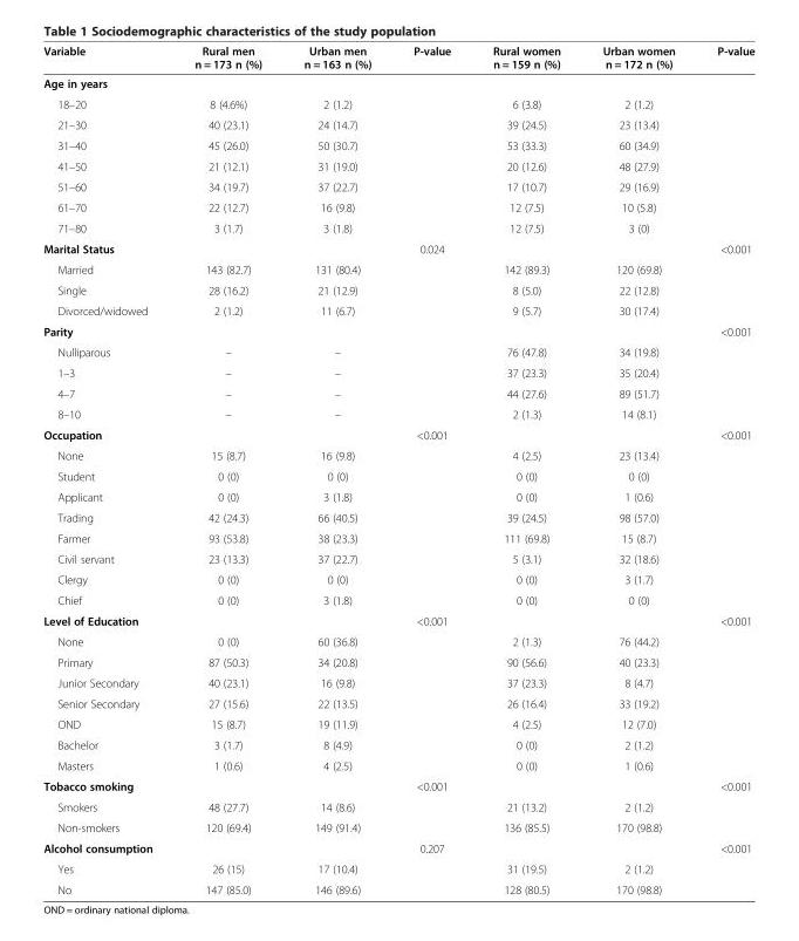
<table><thead><tr><td>Variable</td><td>Rural men n = 173 n (%)</td><td>Urban men n = 163 n (%)</td><td>P-value</td><td>Rural women n = 159 n (%)</td><td>Urban women n = 172 n (%)</td><td>P-value</td></tr></thead><tbody><tr><td colspan="7">Age in years</td></tr><tr><td>18–20</td><td>8 (4.6%)</td><td>2 (1.2)</td><td></td><td>6 (3.8)</td><td>2 (1.2)</td><td></td></tr><tr><td>21–30</td><td>40 (23.1)</td><td>24 (14.7)</td><td></td><td>39 (24.5)</td><td>23 (13.4)</td><td></td></tr><tr><td>31–40</td><td>45 (26.0)</td><td>50 (30.7)</td><td></td><td>53 (33.3)</td><td>60 (34.9)</td><td></td></tr><tr><td>41–50</td><td>21 (12.1)</td><td>31 (19.0)</td><td></td><td>20 (12.6)</td><td>48 (27.9)</td><td></td></tr><tr><td>51–60</td><td>34 (19.7)</td><td>37 (22.7)</td><td></td><td>17 (10.7)</td><td>29 (16.9)</td><td></td></tr><tr><td>61–70</td><td>22 (12.7)</td><td>16 (9.8)</td><td></td><td>12 (7.5)</td><td>10 (5.8)</td><td></td></tr><tr><td>71–80</td><td>3 (1.7)</td><td>3 (1.8)</td><td></td><td>12 (7.5)</td><td>3 (0)</td><td></td></tr><tr><td>Marital Status</td><td></td><td></td><td>0.024</td><td></td><td></td><td>&lt;0.001</td></tr><tr><td>Married</td><td>143 (82.7)</td><td>131 (80.4)</td><td></td><td>142 (89.3)</td><td>120 (69.8)</td><td></td></tr><tr><td>Single</td><td>28 (16.2)</td><td>21 (12.9)</td><td></td><td>8 (5.0)</td><td>22 (12.8)</td><td></td></tr><tr><td>Divorced/widowed</td><td>2 (1.2)</td><td>11 (6.7)</td><td></td><td>9 (5.7)</td><td>30 (17.4)</td><td></td></tr><tr><td>Parity</td><td></td><td></td><td></td><td></td><td></td><td>&lt;0.001</td></tr><tr><td>Nulliparous</td><td>–</td><td>–</td><td></td><td>76 (47.8)</td><td>34 (19.8)</td><td></td></tr><tr><td>1–3</td><td>–</td><td>–</td><td></td><td>37 (23.3)</td><td>35 (20.4)</td><td></td></tr><tr><td>4–7</td><td>–</td><td>–</td><td></td><td>44 (27.6)</td><td>89 (51.7)</td><td></td></tr><tr><td>8–10</td><td>–</td><td>–</td><td></td><td>2 (1.3)</td><td>14 (8.1)</td><td></td></tr><tr><td>Occupation</td><td></td><td></td><td>&lt;0.001</td><td></td><td></td><td>&lt;0.001</td></tr><tr><td>None</td><td>15 (8.7)</td><td>16 (9.8)</td><td></td><td>4 (2.5)</td><td>23 (13.4)</td><td></td></tr><tr><td>Student</td><td>0 (0)</td><td>0 (0)</td><td></td><td>0 (0)</td><td>0 (0)</td><td></td></tr><tr><td>Applicant</td><td>0 (0)</td><td>3 (1.8)</td><td></td><td>0 (0)</td><td>1 (0.6)</td><td></td></tr><tr><td>Trading</td><td>42 (24.3)</td><td>66 (40.5)</td><td></td><td>39 (24.5)</td><td>98 (57.0)</td><td></td></tr><tr><td>Farmer</td><td>93 (53.8)</td><td>38 (23.3)</td><td></td><td>111 (69.8)</td><td>15 (8.7)</td><td></td></tr><tr><td>Civil servant</td><td>23 (13.3)</td><td>37 (22.7)</td><td></td><td>5 (3.1)</td><td>32 (18.6)</td><td></td></tr><tr><td>Clergy</td><td>0 (0)</td><td>0 (0)</td><td></td><td>0 (0)</td><td>3 (1.7)</td><td></td></tr><tr><td>Chief</td><td>0 (0)</td><td>3 (1.8)</td><td></td><td>0 (0)</td><td>0 (0)</td><td></td></tr><tr><td>Level of Education</td><td></td><td></td><td>&lt;0.001</td><td></td><td></td><td>&lt;0.001</td></tr><tr><td>None</td><td>0 (0)</td><td>60 (36.8)</td><td></td><td>2 (1.3)</td><td>76 (44.2)</td><td></td></tr><tr><td>Primary</td><td>87 (50.3)</td><td>34 (20.8)</td><td></td><td>90 (56.6)</td><td>40 (23.3)</td><td></td></tr><tr><td>Junior Secondary</td><td>40 (23.1)</td><td>16 (9.8)</td><td></td><td>37 (23.3)</td><td>8 (4.7)</td><td></td></tr><tr><td>Senior Secondary</td><td>27 (15.6)</td><td>22 (13.5)</td><td></td><td>26 (16.4)</td><td>33 (19.2)</td><td></td></tr><tr><td>OND</td><td>15 (8.7)</td><td>19 (11.9)</td><td></td><td>4 (2.5)</td><td>12 (7.0)</td><td></td></tr><tr><td>Bachelor</td><td>3 (1.7)</td><td>8 (4.9)</td><td></td><td>0 (0)</td><td>2 (1.2)</td><td></td></tr><tr><td>Masters</td><td>1 (0.6)</td><td>4 (2.5)</td><td></td><td>0 (0)</td><td>1 (0.6)</td><td></td></tr><tr><td>Tobacco smoking</td><td></td><td></td><td>&lt;0.001</td><td></td><td></td><td>&lt;0.001</td></tr><tr><td>Smokers</td><td>48 (27.7)</td><td>14 (8.6)</td><td></td><td>21 (13.2)</td><td>2 (1.2)</td><td></td></tr><tr><td>Non-smokers</td><td>120 (69.4)</td><td>149 (91.4)</td><td></td><td>136 (85.5)</td><td>170 (98.8)</td><td></td></tr><tr><td>Alcohol consumption</td><td></td><td></td><td>0.207</td><td></td><td></td><td>&lt;0.001</td></tr><tr><td>Yes</td><td>26 (15)</td><td>17 (10.4)</td><td></td><td>31 (19.5)</td><td>2 (1.2)</td><td></td></tr><tr><td>No</td><td>147 (85.0)</td><td>146 (89.6)</td><td></td><td>128 (80.5)</td><td>170 (98.8)</td><td></td></tr></tbody></table>